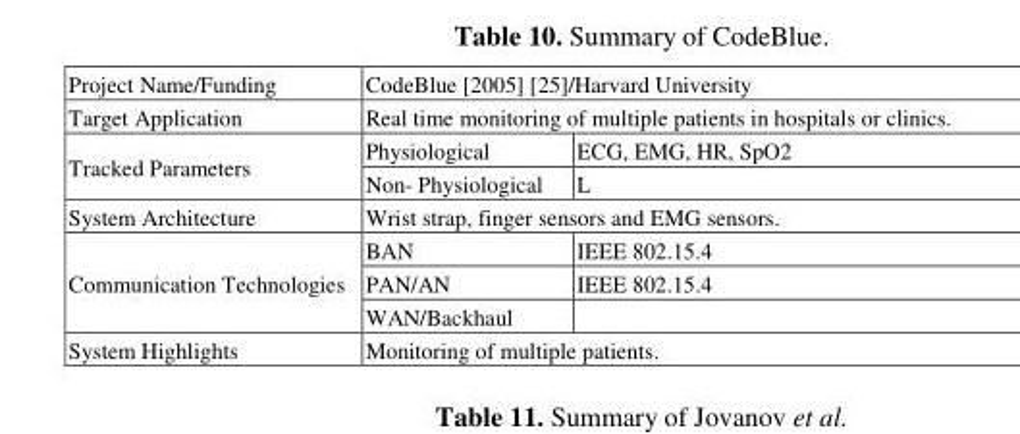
<table><tbody><tr><td>Project Name/Funding</td><td colspan="2">CodeBlue [2005] [25]/Harvard University</td></tr><tr><td>Target Application</td><td colspan="2">Real time monitoring of multiple patients in hospitals or clinics.</td></tr><tr><td rowspan="2">Tracked Parameters</td><td>Physiological</td><td>ECG, EMG, HR, SpO2</td></tr><tr><td>Non- Physiological</td><td>L</td></tr><tr><td>System Architecture</td><td colspan="2">Wrist strap, finger sensors and EMG sensors.</td></tr><tr><td rowspan="3">Communication Technologies</td><td>BAN</td><td>IEEE 802.15.4</td></tr><tr><td>PAN/AN</td><td>IEEE 802.15.4</td></tr><tr><td>WAN/Backhaul</td><td></td></tr><tr><td>System Highlights</td><td colspan="2">Monitoring of multiple patients.</td></tr></tbody></table>